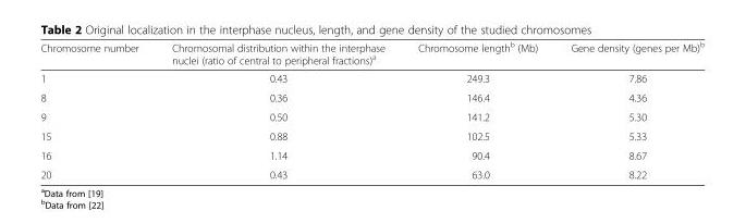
<table><thead><tr><td>Chromosome number</td><td>Chromosomal distribution within the interphase nuclei (ratio of central to peripheral fractions)<sup>a</sup></td><td>Chromosome length<sup>b</sup> (Mb)</td><td>Gene density (genes per Mb)<sup>b</sup></td></tr></thead><tbody><tr><td>1</td><td>0.43</td><td>249.3</td><td>7.86</td></tr><tr><td>8</td><td>0.36</td><td>146.4</td><td>4.36</td></tr><tr><td>9</td><td>0.50</td><td>141.2</td><td>5.30</td></tr><tr><td>15</td><td>0.88</td><td>102.5</td><td>5.33</td></tr><tr><td>16</td><td>1.14</td><td>90.4</td><td>8.67</td></tr><tr><td>20</td><td>0.43</td><td>63.0</td><td>8.22</td></tr></tbody></table>